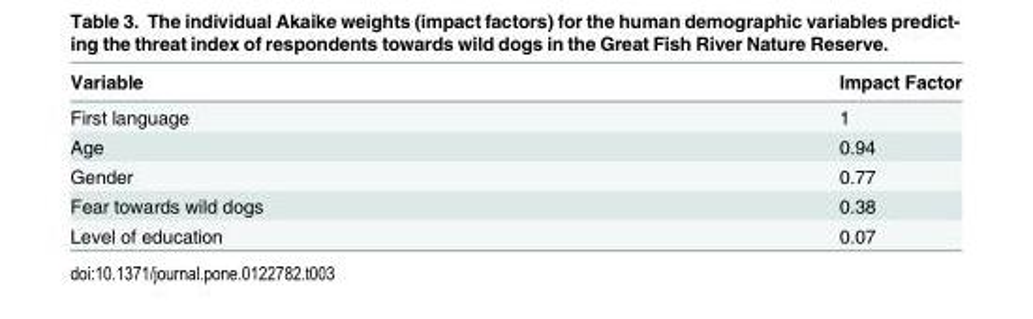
<table><thead><tr><td>Variable</td><td>Impact Factor</td></tr></thead><tbody><tr><td>First language</td><td>1</td></tr><tr><td>Age</td><td>0.94</td></tr><tr><td>Gender</td><td>0.77</td></tr><tr><td>Fear towards wild dogs</td><td>0.38</td></tr><tr><td>Level of education</td><td>0.07</td></tr></tbody></table>